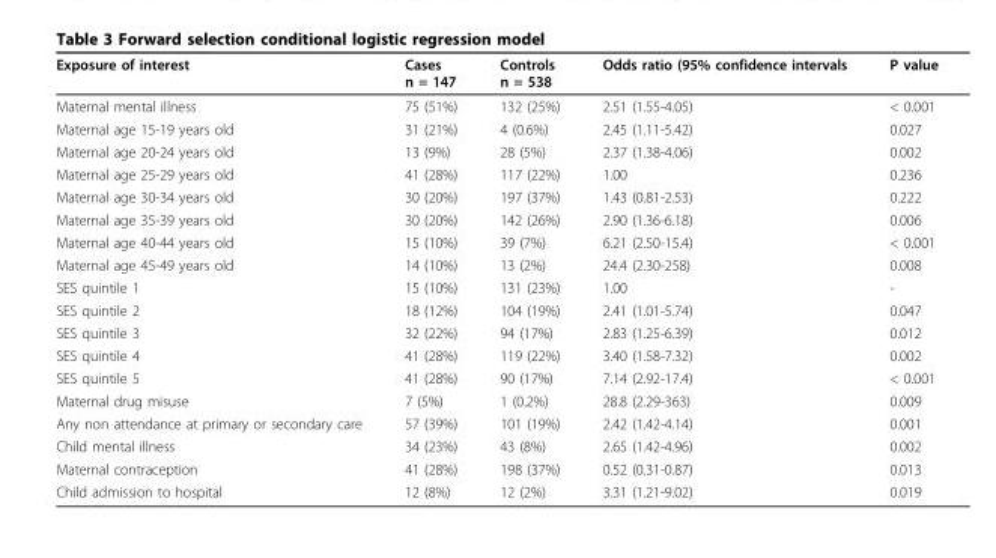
<table><thead><tr><td>Exposure of interest</td><td>Cases n = 147</td><td>Controls n = 538</td><td>Odds ratio (95% confidence intervals</td><td>P value</td></tr></thead><tbody><tr><td>Maternal mental illness</td><td>75 (51%)</td><td>132 (25%)</td><td>2.51 (1.55-4.05)</td><td>&lt; 0.001</td></tr><tr><td>Maternal age 15-19 years old</td><td>31 (21%)</td><td>4 (0.6%)</td><td>2.45 (1.11-5.42)</td><td>0.027</td></tr><tr><td>Maternal age 20-24 years old</td><td>13 (9%)</td><td>28 (5%)</td><td>2.37 (1.38-4.06)</td><td>0.002</td></tr><tr><td>Maternal age 25-29 years old</td><td>41 (28%)</td><td>117 (22%)</td><td>1.00</td><td>0.236</td></tr><tr><td>Maternal age 30-34 years old</td><td>30 (20%)</td><td>197 (37%)</td><td>1.43 (0.81-2.53)</td><td>0.222</td></tr><tr><td>Maternal age 35-39 years old</td><td>30 (20%)</td><td>142 (26%)</td><td>2.90 (1.36-6.18)</td><td>0.006</td></tr><tr><td>Maternal age 40-44 years old</td><td>15 (10%)</td><td>39 (7%)</td><td>6.21 (2.50-15.4)</td><td>&lt; 0.001</td></tr><tr><td>Maternal age 45-49 years old</td><td>14 (10%)</td><td>13 (2%)</td><td>24.4 (2.30-258)</td><td>0.008</td></tr><tr><td>SES quintile 1</td><td>15 (10%)</td><td>131 (23%)</td><td>1.00</td><td>-</td></tr><tr><td>SES quintile 2</td><td>18 (12%)</td><td>104 (19%)</td><td>2.41 (1.01-5.74)</td><td>0.047</td></tr><tr><td>SES quintile 3</td><td>32 (22%)</td><td>94 (17%)</td><td>2.83 (1.25-6.39)</td><td>0.012</td></tr><tr><td>SES quintile 4</td><td>41 (28%)</td><td>119 (22%)</td><td>3.40 (1.58-7.32)</td><td>0.002</td></tr><tr><td>SES quintile 5</td><td>41 (28%)</td><td>90 (17%)</td><td>7.14 (2.92-17.4)</td><td>&lt; 0.001</td></tr><tr><td>Maternal drug misuse</td><td>7 (5%)</td><td>1 (0.2%)</td><td>28.8 (2.29-363)</td><td>0.009</td></tr><tr><td>Any non attendance at primary or secondary care</td><td>57 (39%)</td><td>101 (19%)</td><td>2.42 (1.42-4.14)</td><td>0.001</td></tr><tr><td>Child mental illness</td><td>34 (23%)</td><td>43 (8%)</td><td>2.65 (1.42-4.96)</td><td>0.002</td></tr><tr><td>Maternal contraception</td><td>41 (28%)</td><td>198 (37%)</td><td>0.52 (0.31-0.87)</td><td>0.013</td></tr><tr><td>Child admission to hospital</td><td>12 (8%)</td><td>12 (2%)</td><td>3.31 (1.21-9.02)</td><td>0.019</td></tr></tbody></table>